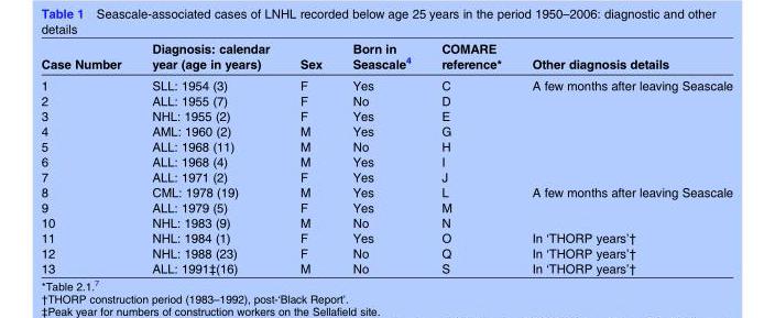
<table><thead><tr><td>Case Number</td><td>Diagnosis: calendar year (age in years)</td><td>Sex</td><td>Born in Seascale<sup>4</sup></td><td>COMARE reference*</td><td>Other diagnosis details</td></tr></thead><tbody><tr><td>1</td><td>SLL: 1954 (3)</td><td>F</td><td>Yes</td><td>C</td><td>A few months after leaving Seascale</td></tr><tr><td>2</td><td>ALL: 1955 (7)</td><td>F</td><td>No</td><td>D</td><td></td></tr><tr><td>3</td><td>NHL: 1955 (2)</td><td>F</td><td>Yes</td><td>E</td><td></td></tr><tr><td>4</td><td>AML: 1960 (2)</td><td>M</td><td>Yes</td><td>G</td><td></td></tr><tr><td>5</td><td>ALL: 1968 (11)</td><td>M</td><td>No</td><td>H</td><td></td></tr><tr><td>6</td><td>ALL: 1968 (4)</td><td>M</td><td>Yes</td><td>I</td><td></td></tr><tr><td>7</td><td>ALL: 1971 (2)</td><td>F</td><td>Yes</td><td>J</td><td></td></tr><tr><td>8</td><td>CML: 1978 (19)</td><td>M</td><td>Yes</td><td>L</td><td>A few months after leaving Seascale</td></tr><tr><td>9</td><td>ALL: 1979 (5)</td><td>F</td><td>Yes</td><td>M</td><td></td></tr><tr><td>10</td><td>NHL: 1983 (9)</td><td>M</td><td>No</td><td>N</td><td></td></tr><tr><td>11</td><td>NHL: 1984 (1)</td><td>F</td><td>Yes</td><td>O</td><td>In ‘THORP years’†</td></tr><tr><td>12</td><td>NHL: 1988 (23)</td><td>F</td><td>No</td><td>Q</td><td>In ‘THORP years’†</td></tr><tr><td>13</td><td>ALL: 1991‡(16)</td><td>M</td><td>No</td><td>S</td><td>In ‘THORP years’†</td></tr></tbody></table>